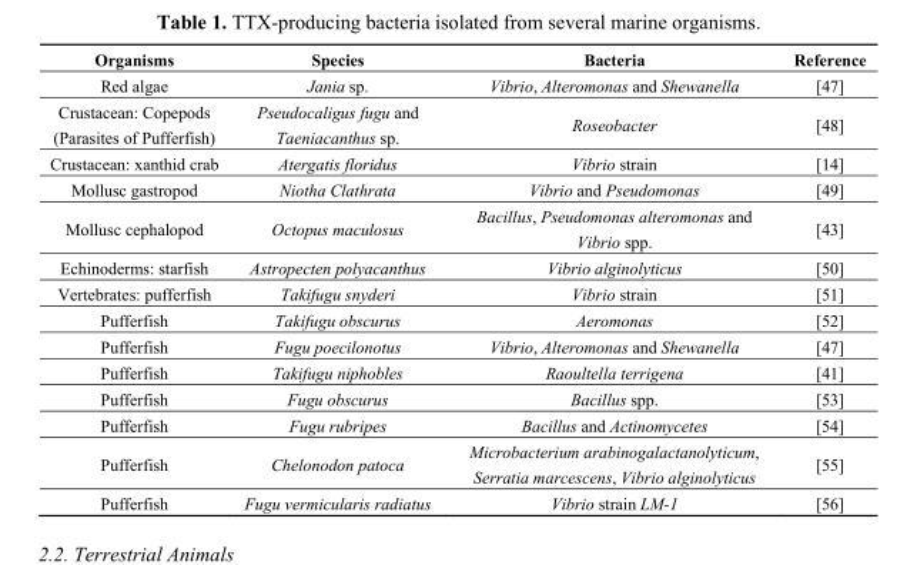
<table><thead><tr><td>Organisms</td><td>Species</td><td>Bacteria</td><td>Reference</td></tr></thead><tbody><tr><td>Red algae</td><td>Jania sp.</td><td>Vibrio, Alteromonas and Shewanella</td><td>[47]</td></tr><tr><td>Crustacean: Copepods (Parasites of Pufferfish)</td><td>Pseudocaligus fugu and Taeniacanthus sp.</td><td>Roseobacter</td><td>[48]</td></tr><tr><td>Crustacean: xanthid crab</td><td>Atergatis floridus</td><td>Vibrio strain</td><td>[14]</td></tr><tr><td>Mollusc gastropod</td><td>Niotha Clathrata</td><td>Vibrio and Pseudomonas</td><td>[49]</td></tr><tr><td>Mollusc cephalopod</td><td>Octopus maculosus</td><td>Bacillus, Pseudomonas alteromonas and Vibrio spp.</td><td>[43]</td></tr><tr><td>Echinoderms: starfish</td><td>Astropecten polyacanthus</td><td>Vibrio alginolyticus</td><td>[50]</td></tr><tr><td>Vertebrates: pufferfish</td><td>Takifugu snyderi</td><td>Vibrio strain</td><td>[51]</td></tr><tr><td>Pufferfish</td><td>Takifugu obscurus</td><td>Aeromonas</td><td>[52]</td></tr><tr><td>Pufferfish</td><td>Fugu poecilonotus</td><td>Vibrio, Alteromonas and Shewanella</td><td>[47]</td></tr><tr><td>Pufferfish</td><td>Takifugu niphobles</td><td>Raoultella terrigena</td><td>[41]</td></tr><tr><td>Pufferfish</td><td>Fugu obscurus</td><td>Bacillus spp.</td><td>[53]</td></tr><tr><td>Pufferfish</td><td>Fugu rubripes</td><td>Bacillus and Actinomycetes</td><td>[54]</td></tr><tr><td>Pufferfish</td><td>Chelonodon patoca</td><td>Microbacterium arabinogalactanolyticum, Serratia marcescens, Vibrio alginolyticus</td><td>[55]</td></tr><tr><td>Pufferfish</td><td>Fugu vermicularis radiatus</td><td>Vibrio strain LM-1</td><td>[56]</td></tr></tbody></table>